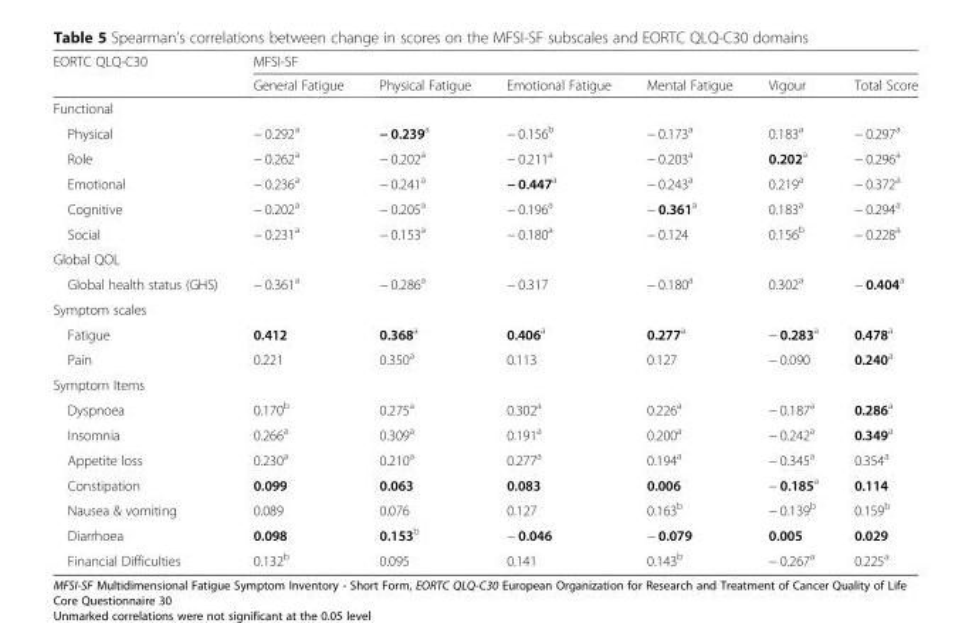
<table><thead><tr><td rowspan="2">EORTC QLQ-C30</td><td colspan="6">MFSI-SF</td></tr><tr><td>General Fatigue</td><td>Physical Fatigue</td><td>Emotional Fatigue</td><td>Mental Fatigue</td><td>Vigour</td><td>Total Score</td></tr></thead><tbody><tr><td colspan="7">Functional</td></tr><tr><td>Physical</td><td>− 0.292<sup>a</sup></td><td>− 0.239<sup>a</sup></td><td>− 0.156<sup>b</sup></td><td>− 0.173<sup>a</sup></td><td>0.183<sup>a</sup></td><td>− 0.297<sup>a</sup></td></tr><tr><td>Role</td><td>− 0.262<sup>a</sup></td><td>− 0.202<sup>a</sup></td><td>− 0.211<sup>a</sup></td><td>− 0.203<sup>a</sup></td><td>0.202<sup>a</sup></td><td>− 0.296<sup>a</sup></td></tr><tr><td>Emotional</td><td>− 0.236<sup>a</sup></td><td>− 0.241<sup>a</sup></td><td>− 0.447<sup>a</sup></td><td>− 0.243<sup>a</sup></td><td>0.219<sup>a</sup></td><td>− 0.372<sup>a</sup></td></tr><tr><td>Cognitive</td><td>− 0.202<sup>a</sup></td><td>− 0.205<sup>a</sup></td><td>− 0.196<sup>a</sup></td><td>− 0.361<sup>a</sup></td><td>0.183<sup>a</sup></td><td>− 0.294<sup>a</sup></td></tr><tr><td>Social</td><td>− 0.231<sup>a</sup></td><td>− 0.153<sup>a</sup></td><td>− 0.180<sup>a</sup></td><td>− 0.124</td><td>0.156<sup>b</sup></td><td>− 0.228<sup>a</sup></td></tr><tr><td colspan="7">Global QOL</td></tr><tr><td>Global health status (GHS)</td><td>− 0.361<sup>a</sup></td><td>− 0.286<sup>a</sup></td><td>− 0.317</td><td>− 0.180<sup>a</sup></td><td>0.302<sup>a</sup></td><td>− 0.404<sup>a</sup></td></tr><tr><td colspan="7">Symptom scales</td></tr><tr><td>Fatigue</td><td>0.412</td><td>0.368<sup>a</sup></td><td>0.406<sup>a</sup></td><td>0.277<sup>a</sup></td><td>− 0.283<sup>a</sup></td><td>0.478<sup>a</sup></td></tr><tr><td>Pain</td><td>0.221</td><td>0.350<sup>a</sup></td><td>0.113</td><td>0.127</td><td>− 0.090</td><td>0.240<sup>a</sup></td></tr><tr><td colspan="7">Symptom Items</td></tr><tr><td>Dyspnoea</td><td>0.170<sup>b</sup></td><td>0.275<sup>a</sup></td><td>0.302<sup>a</sup></td><td>0.226<sup>a</sup></td><td>− 0.187<sup>a</sup></td><td>0.286<sup>a</sup></td></tr><tr><td>Insomnia</td><td>0.266<sup>a</sup></td><td>0.309<sup>a</sup></td><td>0.191<sup>a</sup></td><td>0.200<sup>a</sup></td><td>− 0.242<sup>a</sup></td><td>0.349<sup>a</sup></td></tr><tr><td>Appetite loss</td><td>0.230<sup>a</sup></td><td>0.210<sup>a</sup></td><td>0.277<sup>a</sup></td><td>0.194<sup>a</sup></td><td>− 0.345<sup>a</sup></td><td>0.354<sup>a</sup></td></tr><tr><td>Constipation</td><td>0.099</td><td>0.063</td><td>0.083</td><td>0.006</td><td>− 0.185<sup>a</sup></td><td>0.114</td></tr><tr><td>Nausea &amp; vomiting</td><td>0.089</td><td>0.076</td><td>0.127</td><td>0.163<sup>b</sup></td><td>− 0.139<sup>b</sup></td><td>0.159<sup>b</sup></td></tr><tr><td>Diarrhoea</td><td>0.098</td><td>0.153<sup>b</sup></td><td>− 0.046</td><td>− 0.079</td><td>0.005</td><td>0.029</td></tr><tr><td>Financial Difficulties</td><td>0.132<sup>b</sup></td><td>0.095</td><td>0.141</td><td>0.143<sup>b</sup></td><td>− 0.267<sup>a</sup></td><td>0.225<sup>a</sup></td></tr></tbody></table>